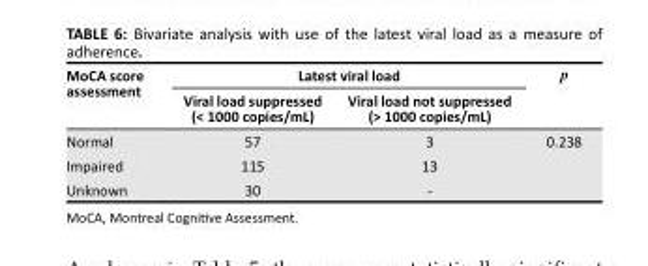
<table><thead><tr><td rowspan="2">MoCA score assessment</td><td colspan="2">Latest viral load</td><td rowspan="2">p</td></tr><tr><td>Viral load suppressed (&lt; 1000 copies/mL)</td><td>Viral load not suppressed (&gt; 1000 copies/mL)</td></tr></thead><tbody><tr><td>Normal</td><td>57</td><td>3</td><td rowspan="3">0.238</td></tr><tr><td>Impaired</td><td>115</td><td>13</td></tr><tr><td>Unknown</td><td>30</td><td>-</td></tr></tbody></table>